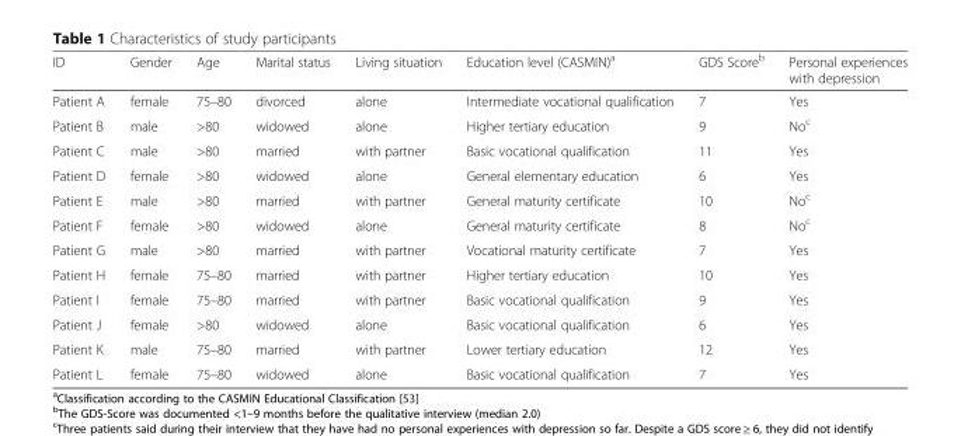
<table><thead><tr><td>ID</td><td>Gender</td><td>Age</td><td>Marital status</td><td>Living situation</td><td>Education level (CASMIN)<sup>a</sup></td><td>GDS Score<sup>b</sup></td><td>Personal experiences with depression</td></tr></thead><tbody><tr><td>Patient A</td><td>female</td><td>75–80</td><td>divorced</td><td>alone</td><td>Intermediate vocational qualification</td><td>7</td><td>Yes</td></tr><tr><td>Patient B</td><td>male</td><td>&gt;80</td><td>widowed</td><td>alone</td><td>Higher tertiary education</td><td>9</td><td>No<sup>c</sup></td></tr><tr><td>Patient C</td><td>male</td><td>&gt;80</td><td>married</td><td>with partner</td><td>Basic vocational qualification</td><td>11</td><td>Yes</td></tr><tr><td>Patient D</td><td>female</td><td>&gt;80</td><td>widowed</td><td>alone</td><td>General elementary education</td><td>6</td><td>Yes</td></tr><tr><td>Patient E</td><td>male</td><td>&gt;80</td><td>married</td><td>with partner</td><td>General maturity certificate</td><td>10</td><td>No<sup>c</sup></td></tr><tr><td>Patient F</td><td>female</td><td>&gt;80</td><td>widowed</td><td>alone</td><td>General maturity certificate</td><td>8</td><td>No<sup>c</sup></td></tr><tr><td>Patient G</td><td>male</td><td>&gt;80</td><td>married</td><td>with partner</td><td>Vocational maturity certificate</td><td>7</td><td>Yes</td></tr><tr><td>Patient H</td><td>female</td><td>75–80</td><td>married</td><td>with partner</td><td>Higher tertiary education</td><td>10</td><td>Yes</td></tr><tr><td>Patient I</td><td>female</td><td>75–80</td><td>married</td><td>with partner</td><td>Basic vocational qualification</td><td>9</td><td>Yes</td></tr><tr><td>Patient J</td><td>female</td><td>&gt;80</td><td>widowed</td><td>alone</td><td>Basic vocational qualification</td><td>6</td><td>Yes</td></tr><tr><td>Patient K</td><td>male</td><td>75–80</td><td>married</td><td>with partner</td><td>Lower tertiary education</td><td>12</td><td>Yes</td></tr><tr><td>Patient L</td><td>female</td><td>75–80</td><td>widowed</td><td>alone</td><td>Basic vocational qualification</td><td>7</td><td>Yes</td></tr></tbody></table>